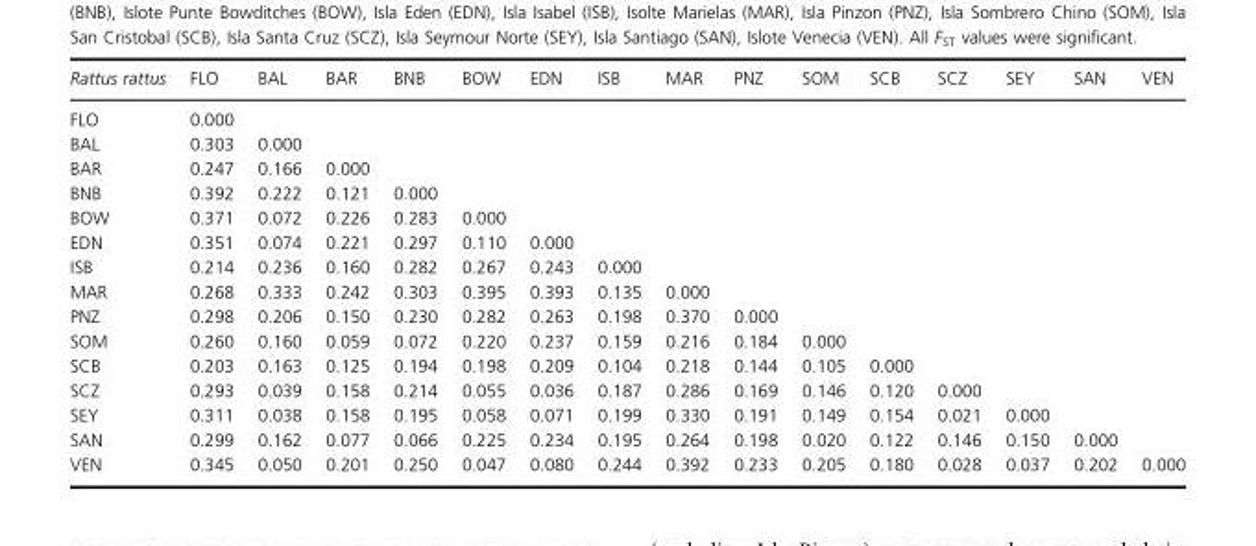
<table><thead><tr><td>Rattus rattus</td><td>FLO</td><td>BAL</td><td>BAR</td><td>BNB</td><td>BOW</td><td>EDN</td><td>ISB</td><td>MAR</td><td>PNZ</td><td>SOM</td><td>SCB</td><td>SCZ</td><td>SEY</td><td>SAN</td><td>VEN</td></tr></thead><tbody><tr><td>FLO</td><td>0.000</td><td></td><td></td><td></td><td></td><td></td><td></td><td></td><td></td><td></td><td></td><td></td><td></td><td></td><td></td></tr><tr><td>BAL</td><td>0.303</td><td>0.000</td><td></td><td></td><td></td><td></td><td></td><td></td><td></td><td></td><td></td><td></td><td></td><td></td><td></td></tr><tr><td>BAR</td><td>0.247</td><td>0.166</td><td>0.000</td><td></td><td></td><td></td><td></td><td></td><td></td><td></td><td></td><td></td><td></td><td></td><td></td></tr><tr><td>BNB</td><td>0.392</td><td>0.222</td><td>0.121</td><td>0.000</td><td></td><td></td><td></td><td></td><td></td><td></td><td></td><td></td><td></td><td></td><td></td></tr><tr><td>BOW</td><td>0.371</td><td>0.072</td><td>0.226</td><td>0.283</td><td>0.000</td><td></td><td></td><td></td><td></td><td></td><td></td><td></td><td></td><td></td><td></td></tr><tr><td>EDN</td><td>0.351</td><td>0.074</td><td>0.221</td><td>0.297</td><td>0.110</td><td>0.000</td><td></td><td></td><td></td><td></td><td></td><td></td><td></td><td></td><td></td></tr><tr><td>ISB</td><td>0.214</td><td>0.236</td><td>0.160</td><td>0.282</td><td>0.267</td><td>0.243</td><td>0.000</td><td></td><td></td><td></td><td></td><td></td><td></td><td></td><td></td></tr><tr><td>MAR</td><td>0.268</td><td>0.333</td><td>0.242</td><td>0.303</td><td>0.395</td><td>0.393</td><td>0.135</td><td>0.000</td><td></td><td></td><td></td><td></td><td></td><td></td><td></td></tr><tr><td>PNZ</td><td>0.298</td><td>0.206</td><td>0.150</td><td>0.230</td><td>0.282</td><td>0.263</td><td>0.198</td><td>0.370</td><td>0.000</td><td></td><td></td><td></td><td></td><td></td><td></td></tr><tr><td>SOM</td><td>0.260</td><td>0.160</td><td>0.059</td><td>0.072</td><td>0.220</td><td>0.237</td><td>0.159</td><td>0.216</td><td>0.184</td><td>0.000</td><td></td><td></td><td></td><td></td><td></td></tr><tr><td>SCB</td><td>0.203</td><td>0.163</td><td>0.125</td><td>0.194</td><td>0.198</td><td>0.209</td><td>0.104</td><td>0.218</td><td>0.144</td><td>0.105</td><td>0.000</td><td></td><td></td><td></td><td></td></tr><tr><td>SCZ</td><td>0.293</td><td>0.039</td><td>0.158</td><td>0.214</td><td>0.055</td><td>0.036</td><td>0.187</td><td>0.286</td><td>0.169</td><td>0.146</td><td>0.120</td><td>0.000</td><td></td><td></td><td></td></tr><tr><td>SEY</td><td>0.311</td><td>0.038</td><td>0.158</td><td>0.195</td><td>0.058</td><td>0.071</td><td>0.199</td><td>0.330</td><td>0.191</td><td>0.149</td><td>0.154</td><td>0.021</td><td>0.000</td><td></td><td></td></tr><tr><td>SAN</td><td>0.299</td><td>0.162</td><td>0.077</td><td>0.066</td><td>0.225</td><td>0.234</td><td>0.195</td><td>0.264</td><td>0.198</td><td>0.020</td><td>0.122</td><td>0.146</td><td>0.150</td><td>0.000</td><td></td></tr><tr><td>VEN</td><td>0.345</td><td>0.050</td><td>0.201</td><td>0.250</td><td>0.047</td><td>0.080</td><td>0.244</td><td>0.392</td><td>0.233</td><td>0.205</td><td>0.180</td><td>0.028</td><td>0.037</td><td>0.202</td><td>0.000</td></tr></tbody></table>